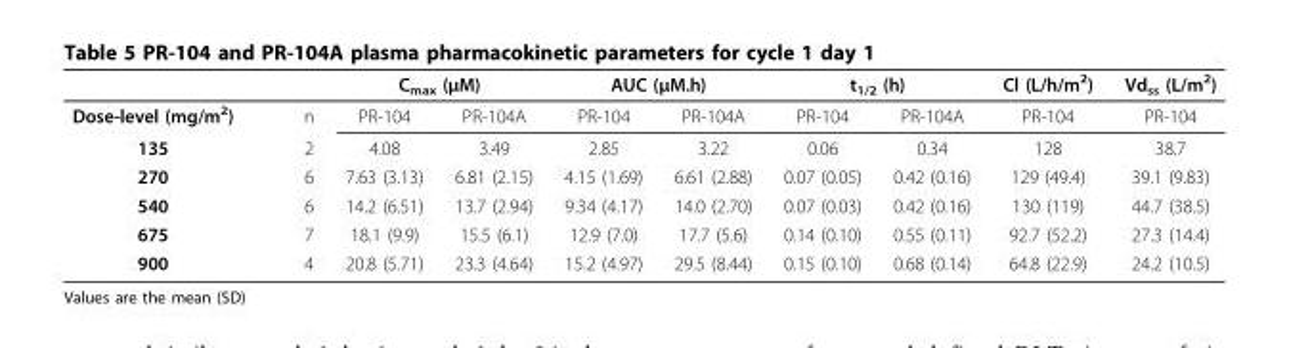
<table><thead><tr><td rowspan="2">Dose-level (mg/m<sup>2</sup>)</td><td rowspan="2">n</td><td colspan="2">C<sub>max</sub> (μM)</td><td colspan="2">AUC (μM.h)</td><td colspan="2">t<sub>1/2</sub> (h)</td><td rowspan="2">Cl (L/h/m<sup>2</sup>) PR-104</td><td rowspan="2">Vd<sub>ss</sub> (L/m<sup>2</sup>) PR-104</td></tr><tr><td>PR-104</td><td>PR-104A</td><td>PR-104</td><td>PR-104A</td><td>PR-104</td><td>PR-104A</td></tr></thead><tbody><tr><td>135</td><td>2</td><td>4.08</td><td>3.49</td><td>2.85</td><td>3.22</td><td>0.06</td><td>0.34</td><td>128</td><td>38.7</td></tr><tr><td>270</td><td>6</td><td>7.63 (3.13)</td><td>6.81 (2.15)</td><td>4.15 (1.69)</td><td>6.61 (2.88)</td><td>0.07 (0.05)</td><td>0.42 (0.16)</td><td>129 (49.4)</td><td>39.1 (9.83)</td></tr><tr><td>540</td><td>6</td><td>14.2 (6.51)</td><td>13.7 (2.94)</td><td>9.34 (4.17)</td><td>14.0 (2.70)</td><td>0.07 (0.03)</td><td>0.42 (0.16)</td><td>130 (119)</td><td>44.7 (38.5)</td></tr><tr><td>675</td><td>7</td><td>18.1 (9.9)</td><td>15.5 (6.1)</td><td>12.9 (7.0)</td><td>17.7 (5.6)</td><td>0.14 (0.10)</td><td>0.55 (0.11)</td><td>92.7 (52.2)</td><td>27.3 (14.4)</td></tr><tr><td>900</td><td>4</td><td>20.8 (5.71)</td><td>23.3 (4.64)</td><td>15.2 (4.97)</td><td>29.5 (8.44)</td><td>0.15 (0.10)</td><td>0.68 (0.14)</td><td>64.8 (22.9)</td><td>24.2 (10.5)</td></tr></tbody></table>